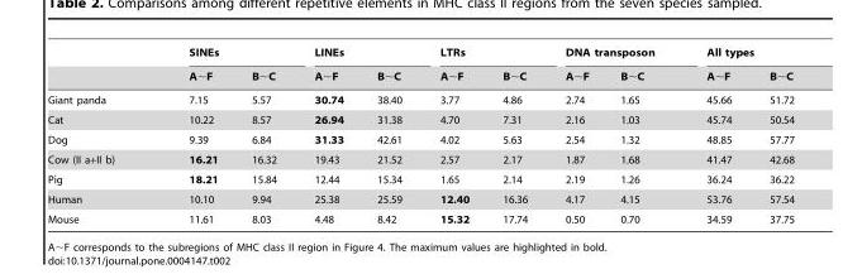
<table><thead><tr><td rowspan="2"></td><td colspan="2">SINEs</td><td colspan="2">LINEs</td><td colspan="2">LTRs</td><td colspan="2">DNA transposon</td><td colspan="2">All types</td></tr><tr><td>A∼F</td><td>B∼C</td><td>A∼F</td><td>B∼C</td><td>A∼F</td><td>B∼C</td><td>A∼F</td><td>B∼C</td><td>A∼F</td><td>B∼C</td></tr></thead><tbody><tr><td>Giant panda</td><td>7.15</td><td>5.57</td><td>30.74</td><td>38.40</td><td>3.77</td><td>4.86</td><td>2.74</td><td>1.65</td><td>45.66</td><td>51.72</td></tr><tr><td>Cat</td><td>10.22</td><td>8.57</td><td>26.94</td><td>31.38</td><td>4.70</td><td>7.31</td><td>2.16</td><td>1.03</td><td>45.74</td><td>50.54</td></tr><tr><td>Dog</td><td>9.39</td><td>6.84</td><td>31.33</td><td>42.61</td><td>4.02</td><td>5.63</td><td>2.54</td><td>1.32</td><td>48.85</td><td>57.77</td></tr><tr><td>Cow (II a+II b)</td><td>16.21</td><td>16.32</td><td>19.43</td><td>21.52</td><td>2.57</td><td>2.17</td><td>1.87</td><td>1.68</td><td>41.47</td><td>42.68</td></tr><tr><td>Pig</td><td>18.21</td><td>15.84</td><td>12.44</td><td>15.34</td><td>1.65</td><td>2.14</td><td>2.19</td><td>1.26</td><td>36.24</td><td>36.22</td></tr><tr><td>Human</td><td>10.10</td><td>9.94</td><td>25.38</td><td>25.59</td><td>12.40</td><td>16.36</td><td>4.17</td><td>4.15</td><td>53.76</td><td>57.54</td></tr><tr><td>Mouse</td><td>11.61</td><td>8.03</td><td>4.48</td><td>8.42</td><td>15.32</td><td>17.74</td><td>0.50</td><td>0.70</td><td>34.59</td><td>37.75</td></tr></tbody></table>